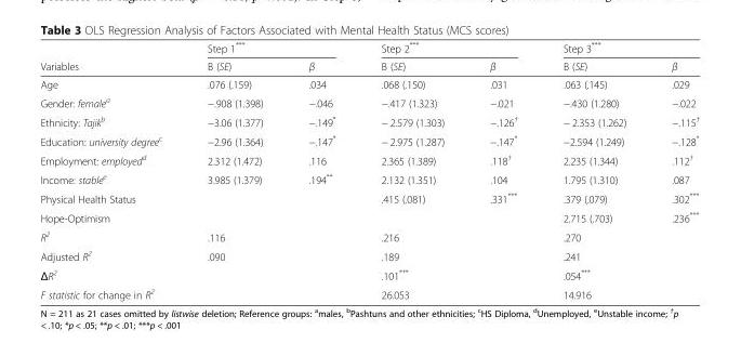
<table><thead><tr><td rowspan="2">Variables</td><td colspan="2">Step 1***</td><td colspan="2">Step 2***</td><td colspan="2">Step 3***</td></tr><tr><td>B (SE)</td><td>β</td><td>B (SE)</td><td>β</td><td>B (SE)</td><td>β</td></tr></thead><tbody><tr><td>Age</td><td>.076 (.159)</td><td>.034</td><td>.068 (.150)</td><td>.031</td><td>.063 (.145)</td><td>.029</td></tr><tr><td>Gender: female<sup>a</sup></td><td>−.908 (1.398)</td><td>−.046</td><td>−.417 (1.323)</td><td>−.021</td><td>−.430 (1.280)</td><td>−.022</td></tr><tr><td>Ethnicity: Tajik<sup>b</sup></td><td>−3.06 (1.377)</td><td>−.149*</td><td>− 2.579 (1.303)</td><td>−.126<sup>†</sup></td><td>− 2.353 (1.262)</td><td>−.115<sup>†</sup></td></tr><tr><td>Education: university degree<sup>c</sup></td><td>−2.96 (1.364)</td><td>−.147*</td><td>− 2.975 (1.287)</td><td>−.147*</td><td>−2.594 (1.249)</td><td>−.128*</td></tr><tr><td>Employment: employed<sup>d</sup></td><td>2.312 (1.472)</td><td>.116</td><td>2.365 (1.389)</td><td>.118<sup>†</sup></td><td>2.235 (1.344)</td><td>.112<sup>†</sup></td></tr><tr><td>Income: stable<sup>e</sup></td><td>3.985 (1.379)</td><td>.194**</td><td>2.132 (1.351)</td><td>.104</td><td>1.795 (1.310)</td><td>.087</td></tr><tr><td>Physical Health Status</td><td></td><td></td><td>.415 (.081)</td><td>.331***</td><td>.379 (.079)</td><td>.302***</td></tr><tr><td>Hope-Optimism</td><td></td><td></td><td></td><td></td><td>2.715 (.703)</td><td>.236***</td></tr><tr><td>R<sup>2</sup></td><td colspan="2">.116</td><td colspan="2">.216</td><td colspan="2">.270</td></tr><tr><td>Adjusted R<sup>2</sup></td><td colspan="2">.090</td><td colspan="2">.189</td><td colspan="2">.241</td></tr><tr><td>ΔR<sup>2</sup></td><td colspan="2"></td><td colspan="2">.101***</td><td colspan="2">.054***</td></tr><tr><td>F statistic for change in R<sup>2</sup></td><td colspan="2"></td><td colspan="2">26.053</td><td colspan="2">14.916</td></tr></tbody></table>